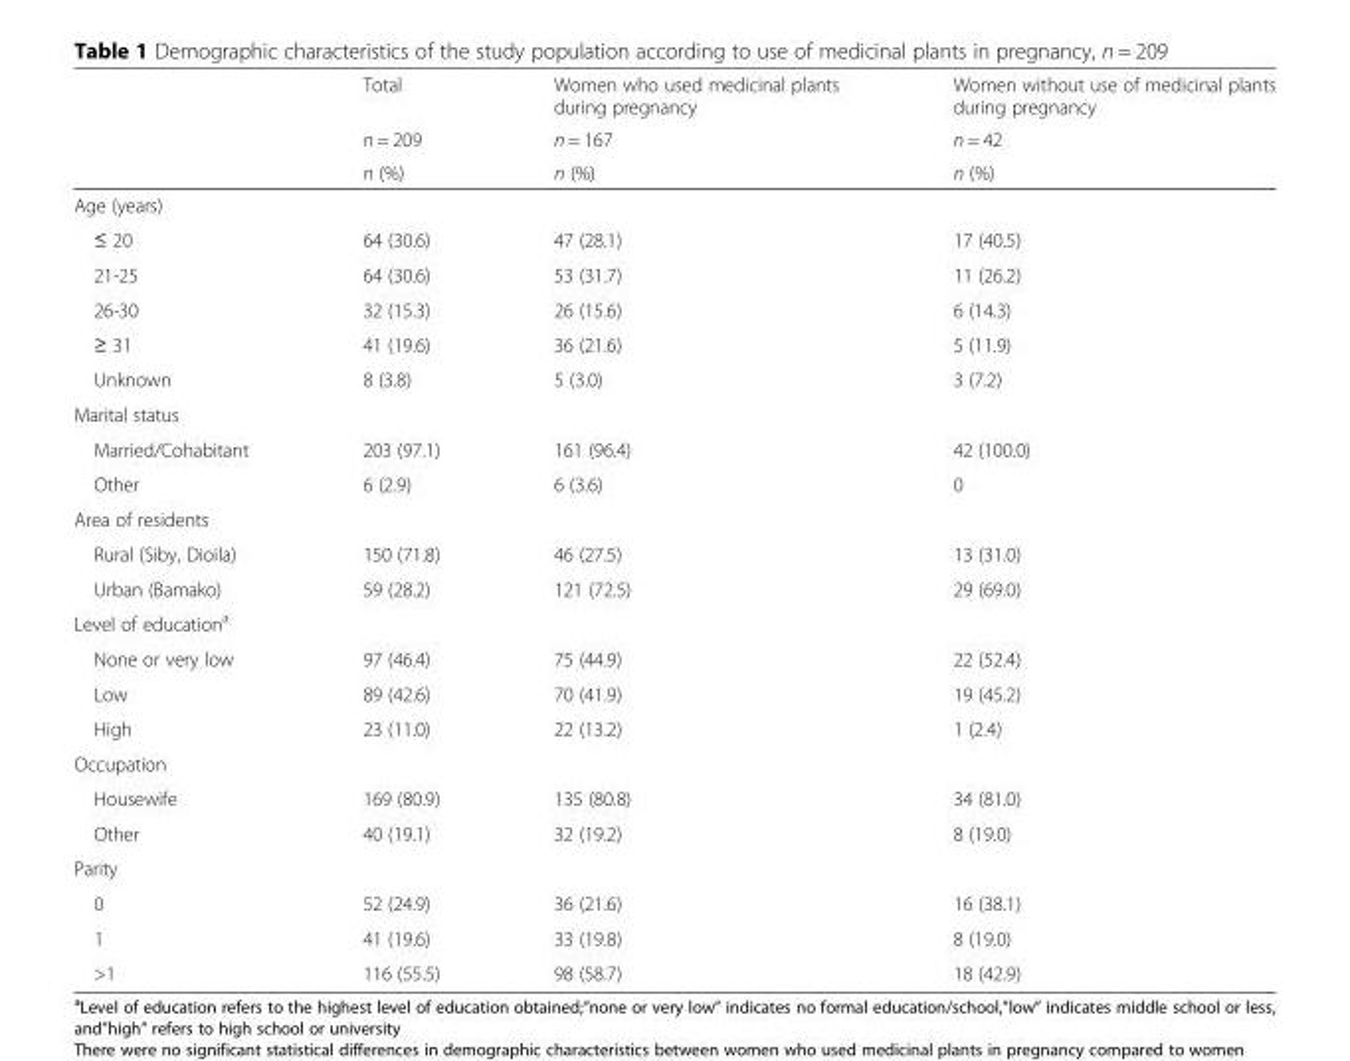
<table><thead><tr><td rowspan="3"></td><td rowspan="3">Total n = 209 n (%)</td><td rowspan="3">Women who used medicinal plants during pregnancy n = 167 n (%)</td><td rowspan="3">Women without use of medicinal plants during pregnancy n = 42 n (%)</td></tr><tr></tr><tr></tr></thead><tbody><tr><td colspan="4">Age (years)</td></tr><tr><td>≤ 20</td><td>64 (30.6)</td><td>47 (28.1)</td><td>17 (40.5)</td></tr><tr><td>21-25</td><td>64 (30.6)</td><td>53 (31.7)</td><td>11 (26.2)</td></tr><tr><td>26-30</td><td>32 (15.3)</td><td>26 (15.6)</td><td>6 (14.3)</td></tr><tr><td>≥ 31</td><td>41 (19.6)</td><td>36 (21.6)</td><td>5 (11.9)</td></tr><tr><td>Unknown</td><td>8 (3.8)</td><td>5 (3.0)</td><td>3 (7.2)</td></tr><tr><td colspan="4">Marital status</td></tr><tr><td>Married/Cohabitant</td><td>203 (97.1)</td><td>161 (96.4)</td><td>42 (100.0)</td></tr><tr><td>Other</td><td>6 (2.9)</td><td>6 (3.6)</td><td>0</td></tr><tr><td colspan="4">Area of residents</td></tr><tr><td>Rural (Siby, Dioila)</td><td>150 (71.8)</td><td>46 (27.5)</td><td>13 (31.0)</td></tr><tr><td>Urban (Bamako)</td><td>59 (28.2)</td><td>121 (72.5)</td><td>29 (69.0)</td></tr><tr><td colspan="4">Level of education<sup>a</sup></td></tr><tr><td>None or very low</td><td>97 (46.4)</td><td>75 (44.9)</td><td>22 (52.4)</td></tr><tr><td>Low</td><td>89 (42.6)</td><td>70 (41.9)</td><td>19 (45.2)</td></tr><tr><td>High</td><td>23 (11.0)</td><td>22 (13.2)</td><td>1 (2.4)</td></tr><tr><td colspan="4">Occupation</td></tr><tr><td>Housewife</td><td>169 (80.9)</td><td>135 (80.8)</td><td>34 (81.0)</td></tr><tr><td>Other</td><td>40 (19.1)</td><td>32 (19.2)</td><td>8 (19.0)</td></tr><tr><td colspan="4">Parity</td></tr><tr><td>0</td><td>52 (24.9)</td><td>36 (21.6)</td><td>16 (38.1)</td></tr><tr><td>1</td><td>41 (19.6)</td><td>33 (19.8)</td><td>8 (19.0)</td></tr><tr><td>&gt;1</td><td>116 (55.5)</td><td>98 (58.7)</td><td>18 (42.9)</td></tr></tbody></table>